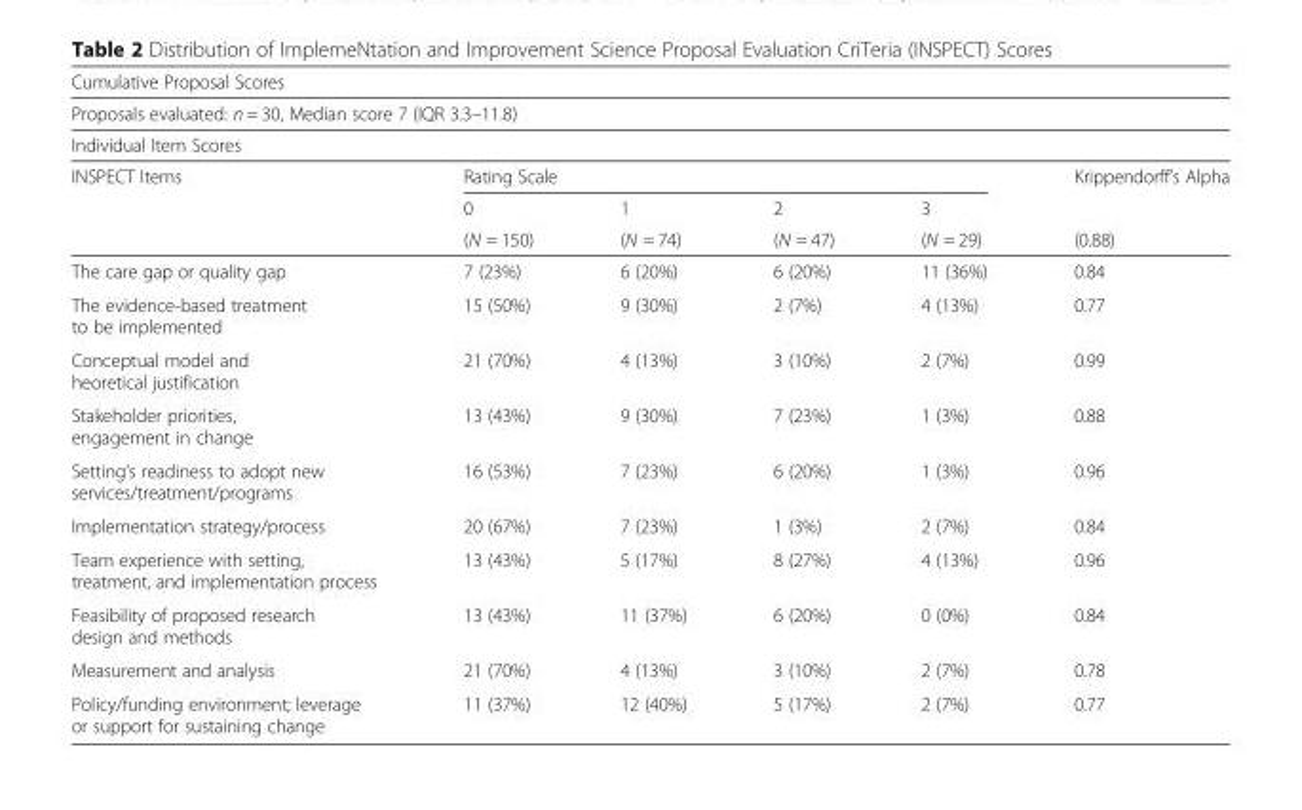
<table><thead><tr><td rowspan="3" colspan="6">Cumulative Proposal Scores Proposals evaluated: n = 30, Median score 7 (IQR 3.3–11.8) Individual Item Scores</td></tr><tr></tr><tr></tr><tr><td rowspan="3">INSPECT Items</td><td colspan="4">Rating Scale</td><td rowspan="3">Krippendorff’s Alpha (0.88)</td></tr><tr><td rowspan="2">0 (N = 150)</td><td rowspan="2">1 (N = 74)</td><td rowspan="2">2 (N = 47)</td><td rowspan="2">3 (N = 29)</td></tr><tr></tr></thead><tbody><tr><td>The care gap or quality gap</td><td>7 (23%)</td><td>6 (20%)</td><td>6 (20%)</td><td>11 (36%)</td><td>0.84</td></tr><tr><td>The evidence-based treatment to be implemented</td><td>15 (50%)</td><td>9 (30%)</td><td>2 (7%)</td><td>4 (13%)</td><td>0.77</td></tr><tr><td>Conceptual model and heoretical justification</td><td>21 (70%)</td><td>4 (13%)</td><td>3 (10%)</td><td>2 (7%)</td><td>0.99</td></tr><tr><td>Stakeholder priorities, engagement in change</td><td>13 (43%)</td><td>9 (30%)</td><td>7 (23%)</td><td>1 (3%)</td><td>0.88</td></tr><tr><td>Setting’s readiness to adopt new services/treatment/programs</td><td>16 (53%)</td><td>7 (23%)</td><td>6 (20%)</td><td>1 (3%)</td><td>0.96</td></tr><tr><td>Implementation strategy/process</td><td>20 (67%)</td><td>7 (23%)</td><td>1 (3%)</td><td>2 (7%)</td><td>0.84</td></tr><tr><td>Team experience with setting, treatment, and implementation process</td><td>13 (43%)</td><td>5 (17%)</td><td>8 (27%)</td><td>4 (13%)</td><td>0.96</td></tr><tr><td>Feasibility of proposed research design and methods</td><td>13 (43%)</td><td>11 (37%)</td><td>6 (20%)</td><td>0 (0%)</td><td>0.84</td></tr><tr><td>Measurement and analysis</td><td>21 (70%)</td><td>4 (13%)</td><td>3 (10%)</td><td>2 (7%)</td><td>0.78</td></tr><tr><td>Policy/funding environment; leverage or support for sustaining change</td><td>11 (37%)</td><td>12 (40%)</td><td>5 (17%)</td><td>2 (7%)</td><td>0.77</td></tr></tbody></table>